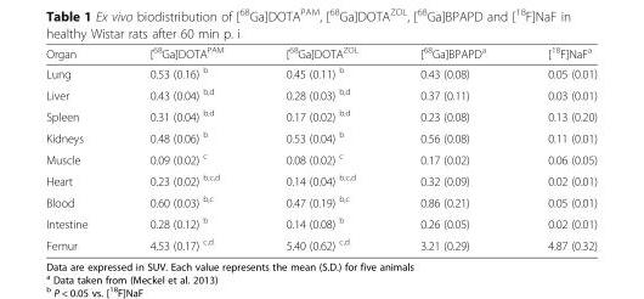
<table><thead><tr><td>Organ</td><td>[<sup>68</sup>Ga]DOTA<sup>PAM</sup></td><td>[<sup>68</sup>Ga]DOTA<sup>ZOL</sup></td><td>[<sup>68</sup>Ga]BPAPD<sup>a</sup></td><td>[<sup>18</sup>F]NaF<sup>a</sup></td></tr></thead><tbody><tr><td>Lung</td><td>0.53 (0.16) <sup>b</sup></td><td>0.45 (0.11) <sup>b</sup></td><td>0.43 (0.08)</td><td>0.05 (0.01)</td></tr><tr><td>Liver</td><td>0.43 (0.04) <sup>b,d</sup></td><td>0.28 (0.03) <sup>b,d</sup></td><td>0.37 (0.11)</td><td>0.03 (0.01)</td></tr><tr><td>Spleen</td><td>0.31 (0.04) <sup>b,d</sup></td><td>0.17 (0.02) <sup>b,d</sup></td><td>0.23 (0.08)</td><td>0.13 (0.20)</td></tr><tr><td>Kidneys</td><td>0.48 (0.06) <sup>b</sup></td><td>0.53 (0.04) <sup>b</sup></td><td>0.56 (0.08)</td><td>0.11 (0.01)</td></tr><tr><td>Muscle</td><td>0.09 (0.02) <sup>c</sup></td><td>0.08 (0.02) <sup>c</sup></td><td>0.17 (0.02)</td><td>0.06 (0.05)</td></tr><tr><td>Heart</td><td>0.23 (0.02) <sup>b,c,d</sup></td><td>0.14 (0.04) <sup>b,c,d</sup></td><td>0.32 (0.09)</td><td>0.02 (0.01)</td></tr><tr><td>Blood</td><td>0.60 (0.03) <sup>b,c</sup></td><td>0.47 (0.19) <sup>b,c</sup></td><td>0.86 (0.21)</td><td>0.05 (0.01)</td></tr><tr><td>Intestine</td><td>0.28 (0.12) <sup>b</sup></td><td>0.14 (0.08) <sup>b</sup></td><td>0.26 (0.05)</td><td>0.02 (0.01)</td></tr><tr><td>Femur</td><td>4.53 (0.17) <sup>c,d</sup></td><td>5.40 (0.62) <sup>c,d</sup></td><td>3.21 (0.29)</td><td>4.87 (0.32)</td></tr></tbody></table>